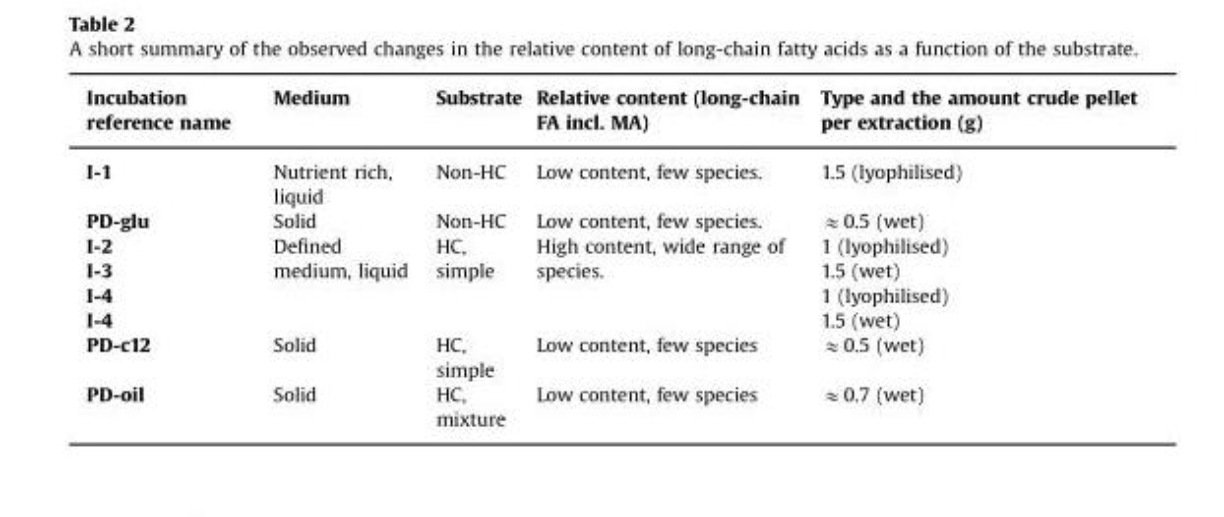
<table><thead><tr><td>Incubation reference name</td><td>Medium</td><td>Substrate</td><td>Relative content (long-chain FA incl. MA)</td><td>Type and the amount crude pellet per extraction (g)</td></tr></thead><tbody><tr><td>I-1</td><td>Nutrient rich, liquid</td><td>Non-HC</td><td>Low content, few species.</td><td>1.5 (lyophilised)</td></tr><tr><td>PD-glu</td><td>Solid</td><td>Non-HC</td><td>Low content, few species.</td><td>≈0.5 (wet)</td></tr><tr><td>I-2</td><td rowspan="4">Defined medium, liquid</td><td rowspan="4">HC, simple</td><td rowspan="4">High content, wide range of species.</td><td>1 (lyophilised)</td></tr><tr><td>I-3</td><td>1.5 (wet)</td></tr><tr><td>I-4</td><td>1 (lyophilised)</td></tr><tr><td>I-4</td><td>1.5 (wet)</td></tr><tr><td>PD-c12</td><td>Solid</td><td>HC, simple</td><td>Low content, few species</td><td>≈0.5 (wet)</td></tr><tr><td>PD-oil</td><td>Solid</td><td>HC, mixture</td><td>Low content, few species</td><td>≈0.7 (wet)</td></tr></tbody></table>